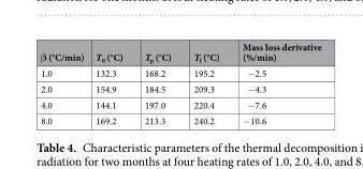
<table><thead><tr><td>β (°C/min)</td><td>T<sub>0</sub> (°C)</td><td>T<sub>p</sub> (°C)</td><td>T<sub>f</sub> (°C)</td><td>Mass loss derivative (%/min)</td></tr></thead><tbody><tr><td>1.0</td><td>132.3</td><td>168.2</td><td>195.2</td><td>−2.5</td></tr><tr><td>2.0</td><td>154.9</td><td>184.5</td><td>209.3</td><td>−4.3</td></tr><tr><td>4.0</td><td>144.1</td><td>197.0</td><td>220.4</td><td>−7.6</td></tr><tr><td>8.0</td><td>169.2</td><td>213.3</td><td>240.2</td><td>−10.6</td></tr></tbody></table>